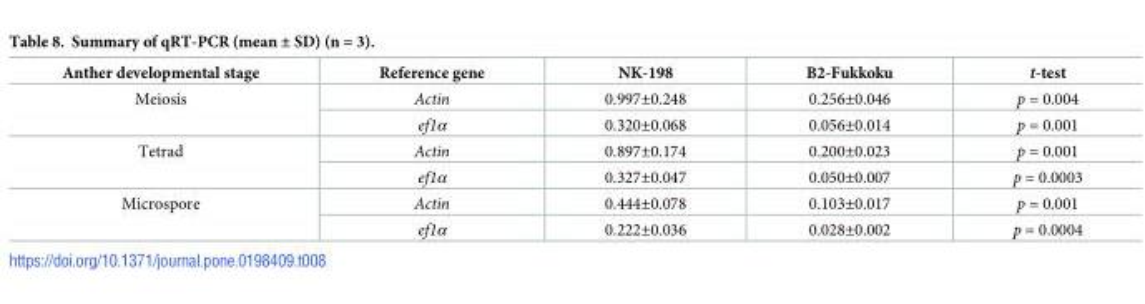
<table><thead><tr><td>Anther developmental stage</td><td>Reference gene</td><td>NK-198</td><td>B2-Fukkoku</td><td>t-test</td></tr></thead><tbody><tr><td rowspan="2">Meiosis</td><td>Actin</td><td>0.997±0.248</td><td>0.256±0.046</td><td>p = 0.004</td></tr><tr><td>ef1α</td><td>0.320±0.068</td><td>0.056±0.014</td><td>p = 0.001</td></tr><tr><td rowspan="2">Tetrad</td><td>Actin</td><td>0.897±0.174</td><td>0.200±0.023</td><td>p = 0.001</td></tr><tr><td>ef1α</td><td>0.327±0.047</td><td>0.050±0.007</td><td>p = 0.0003</td></tr><tr><td rowspan="2">Microspore</td><td>Actin</td><td>0.444±0.078</td><td>0.103±0.017</td><td>p = 0.001</td></tr><tr><td>ef1α</td><td>0.222±0.036</td><td>0.028±0.002</td><td>p = 0.0004</td></tr></tbody></table>